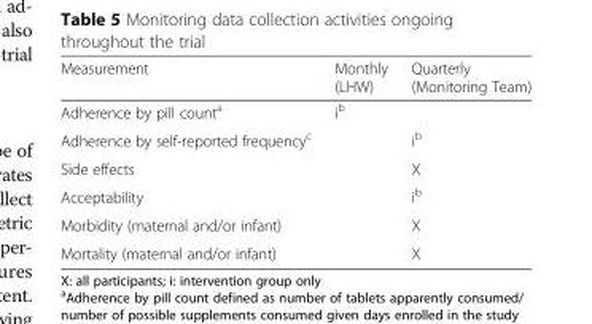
<table><thead><tr><td>Measurement</td><td>Monthly (LHW)</td><td>Quarterly (Monitoring Team)</td></tr></thead><tbody><tr><td>Adherence by pill count<sup>a</sup></td><td>i<sup>b</sup></td><td></td></tr><tr><td>Adherence by self-reported frequency<sup>c</sup></td><td></td><td>i<sup>b</sup></td></tr><tr><td>Side effects</td><td></td><td>X</td></tr><tr><td>Acceptability</td><td></td><td>i<sup>b</sup></td></tr><tr><td>Morbidity (maternal and/or infant)</td><td></td><td>X</td></tr><tr><td>Mortality (maternal and/or infant)</td><td></td><td>X</td></tr></tbody></table>